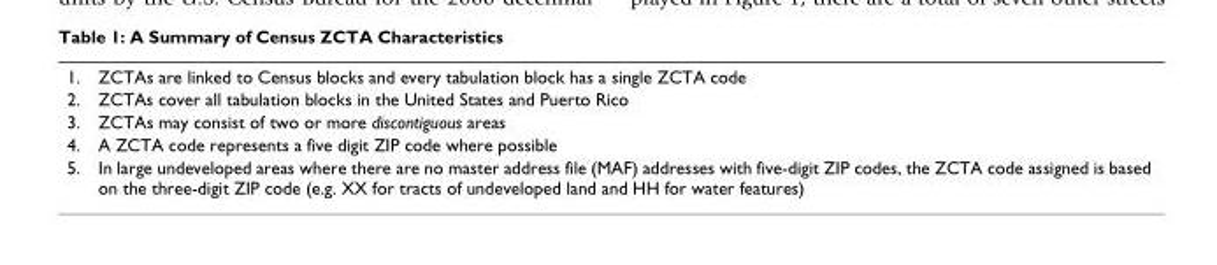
<table><tbody><tr><td>1.</td><td>ZCTAs are linked to Census blocks and every tabulation block has a single ZCTA code</td></tr><tr><td>2.</td><td>ZCTAs cover all tabulation blocks in the United States and Puerto Rico</td></tr><tr><td>3.</td><td>ZCTAs may consist of two or more discontiguous areas</td></tr><tr><td>4.</td><td>A ZCTA code represents a five digit ZIP code where possible</td></tr><tr><td>5.</td><td>In large undeveloped areas where there are no master address file (MAF) addresses with five-digit ZIP codes, the ZCTA code assigned is based on the three-digit ZIP code (e.g. XX for tracts of undeveloped land and HH for water features)</td></tr></tbody></table>